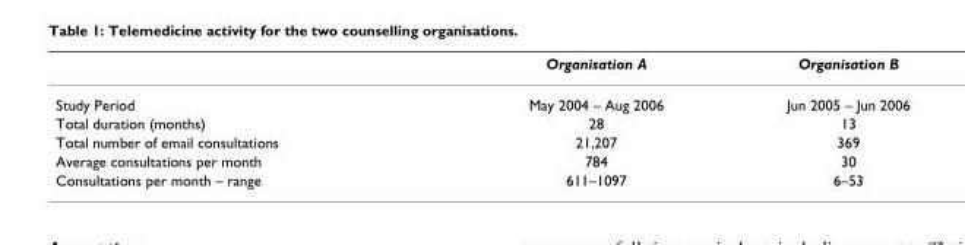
<table><thead><tr><td></td><td>Organisation A</td><td>Organisation B</td></tr></thead><tbody><tr><td>Study Period</td><td>May 2004 – Aug 2006</td><td>Jun 2005 – Jun 2006</td></tr><tr><td>Total duration (months)</td><td>28</td><td>13</td></tr><tr><td>Total number of email consultations</td><td>21,207</td><td>369</td></tr><tr><td>Average consultations per month</td><td>784</td><td>30</td></tr><tr><td>Consultations per month – range</td><td>611–1097</td><td>6–53</td></tr></tbody></table>